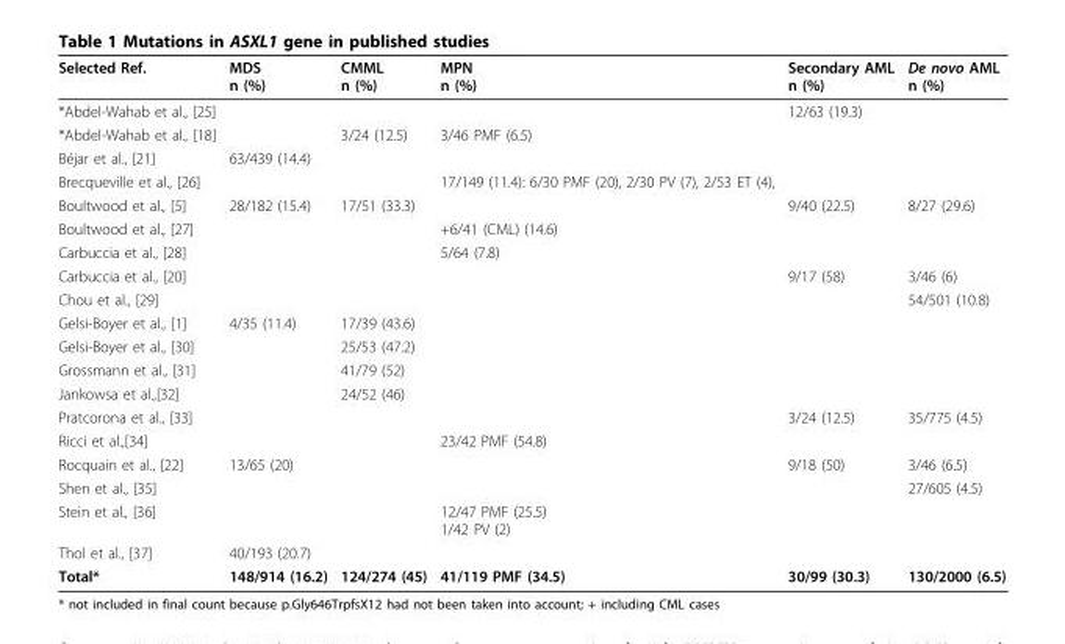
<table><thead><tr><td>Selected Ref.</td><td>MDS n (%)</td><td>CMML n (%)</td><td>MPN n (%)</td><td>Secondary AML n (%)</td><td>De novo AML n (%)</td></tr></thead><tbody><tr><td>*Abdel-Wahab et al., [25]</td><td></td><td></td><td></td><td>12/63 (19.3)</td><td></td></tr><tr><td>*Abdel-Wahab et al., [18]</td><td></td><td>3/24 (12.5)</td><td>3/46 PMF (6.5)</td><td></td><td></td></tr><tr><td>Béjar et al., [21]</td><td>63/439 (14.4)</td><td></td><td></td><td></td><td></td></tr><tr><td>Brecqueville et al., [26]</td><td></td><td></td><td>17/149 (11.4): 6/30 PMF (20), 2/30 PV (7), 2/53 ET (4),</td><td></td><td></td></tr><tr><td>Boultwood et al., [5]</td><td>28/182 (15.4)</td><td>17/51 (33.3)</td><td></td><td>9/40 (22.5)</td><td>8/27 (29.6)</td></tr><tr><td>Boultwood et al., [27]</td><td></td><td></td><td>+6/41 (CML) (14.6)</td><td></td><td></td></tr><tr><td>Carbuccia et al., [28]</td><td></td><td></td><td>5/64 (7.8)</td><td></td><td></td></tr><tr><td>Carbuccia et al., [20]</td><td></td><td></td><td></td><td>9/17 (58)</td><td>3/46 (6)</td></tr><tr><td>Chou et al., [29]</td><td></td><td></td><td></td><td></td><td>54/501 (10.8)</td></tr><tr><td>Gelsi-Boyer et al., [1]</td><td>4/35 (11.4)</td><td>17/39 (43.6)</td><td></td><td></td><td></td></tr><tr><td>Gelsi-Boyer et al., [30]</td><td></td><td>25/53 (47.2)</td><td></td><td></td><td></td></tr><tr><td>Grossmann et al., [31]</td><td></td><td>41/79 (52)</td><td></td><td></td><td></td></tr><tr><td>Jankowsa et al.,[32]</td><td></td><td>24/52 (46)</td><td></td><td></td><td></td></tr><tr><td>Pratcorona et al., [33]</td><td></td><td></td><td></td><td>3/24 (12.5)</td><td>35/775 (4.5)</td></tr><tr><td>Ricci et al.,[34]</td><td></td><td></td><td>23/42 PMF (54.8)</td><td></td><td></td></tr><tr><td>Rocquain et al., [22]</td><td>13/65 (20)</td><td></td><td></td><td>9/18 (50)</td><td>3/46 (6.5)</td></tr><tr><td>Shen et al., [35]</td><td></td><td></td><td></td><td></td><td>27/605 (4.5)</td></tr><tr><td>Stein et al., [36]</td><td></td><td></td><td>12/47 PMF (25.5) 1/42 PV (2)</td><td></td><td></td></tr><tr><td>Thol et al., [37]</td><td>40/193 (20.7)</td><td></td><td></td><td></td><td></td></tr><tr><td>Total*</td><td>148/914 (16.2)</td><td>124/274 (45)</td><td>41/119 PMF (34.5)</td><td>30/99 (30.3)</td><td>130/2000 (6.5)</td></tr></tbody></table>